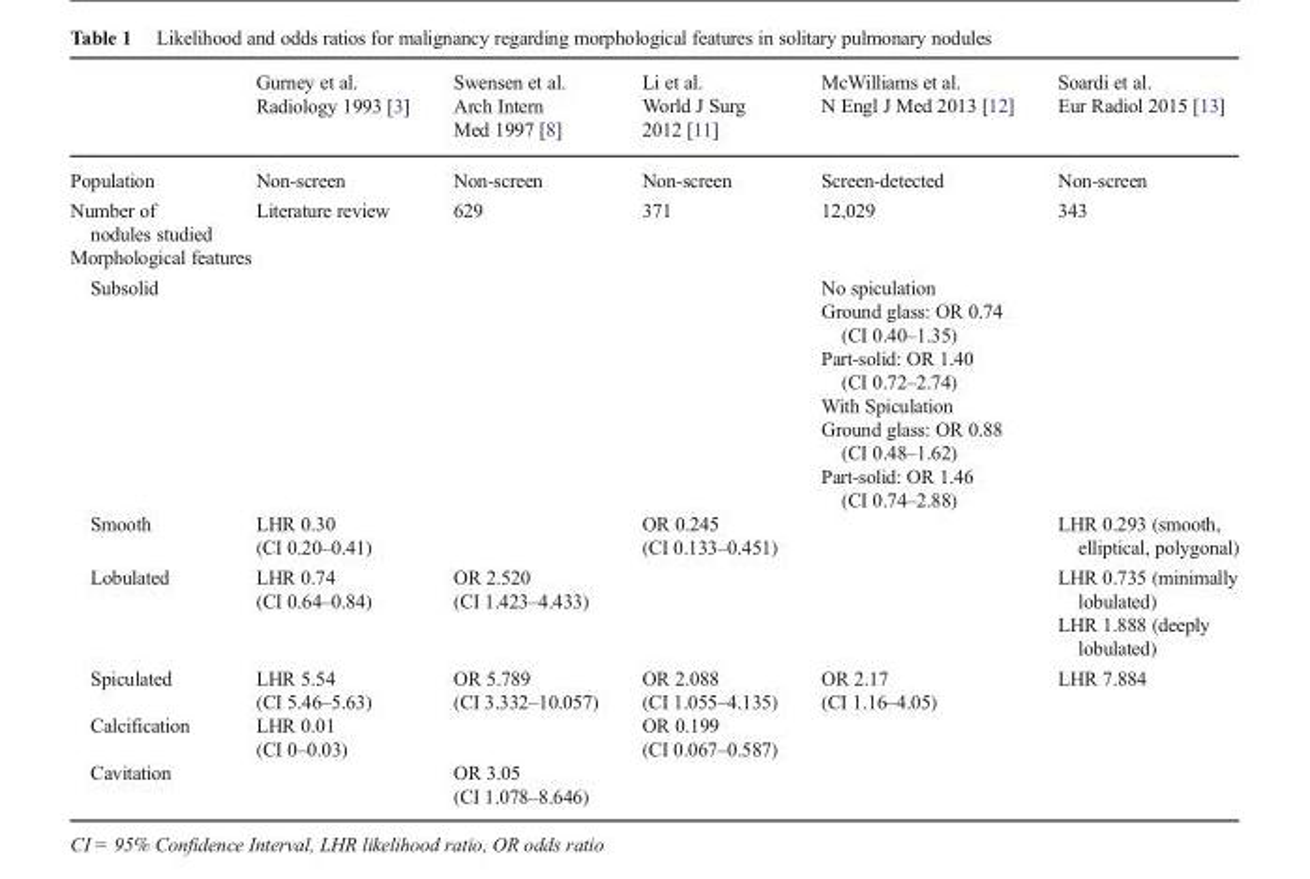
<table><thead><tr><td></td><td>Gurney et al. Radiology 1993 [3]</td><td>Swensen et al. Arch Intern Med 1997 [8]</td><td>Li et al. World J Surg 2012 [11]</td><td>McWilliams et al. N Engl J Med 2013 [12]</td><td>Soardi et al. Eur Radiol 2015 [13]</td></tr></thead><tbody><tr><td>Population</td><td>Non-screen</td><td>Non-screen</td><td>Non-screen</td><td>Screen-detected</td><td>Non-screen</td></tr><tr><td>Number of nodules studied</td><td>Literature review</td><td>629</td><td>371</td><td>12,029</td><td>343</td></tr><tr><td colspan="6">Morphological features</td></tr><tr><td>Subsolid</td><td></td><td></td><td></td><td>No spiculation Ground glass: OR 0.74 (CI 0.40–1.35) Part-solid: OR 1.40 (CI 0.72–2.74) With Spiculation Ground glass: OR 0.88 (CI 0.48–1.62) Part-solid: OR 1.46 (CI 0.74–2.88)</td><td></td></tr><tr><td>Smooth</td><td>LHR 0.30 (CI 0.20–0.41)</td><td></td><td>OR 0.245 (CI 0.133–0.451)</td><td></td><td>LHR 0.293 (smooth, elliptical, polygonal)</td></tr><tr><td>Lobulated</td><td>LHR 0.74 (CI 0.64–0.84)</td><td>OR 2.520 (CI 1.423–4.433)</td><td></td><td></td><td>LHR 0.735 (minimally lobulated) LHR 1.888 (deeply lobulated)</td></tr><tr><td>Spiculated</td><td>LHR 5.54 (CI 5.46–5.63)</td><td>OR 5.789 (CI 3.332–10.057)</td><td>OR 2.088 (CI 1.055–4.135)</td><td>OR 2.17 (CI 1.16–4.05)</td><td>LHR 7.884</td></tr><tr><td>Calcification</td><td>LHR 0.01 (CI 0–0.03)</td><td></td><td>OR 0.199 (CI 0.067–0.587)</td><td></td><td></td></tr><tr><td>Cavitation</td><td></td><td>OR 3.05 (CI 1.078–8.646)</td><td></td><td></td><td></td></tr></tbody></table>